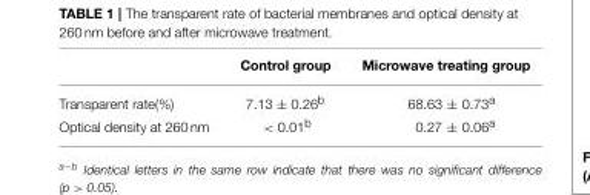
<table><thead><tr><td></td><td>Control group</td><td>Microwave treating group</td></tr></thead><tbody><tr><td>Transparent rate(%)</td><td>7.13 ± 0.26<sup>b</sup></td><td>68.63 ± 0.73<sup>a</sup></td></tr><tr><td>Optical density at 260 nm</td><td>&lt; 0.01<sup>b</sup></td><td>0.27 ± 0.06<sup>a</sup></td></tr></tbody></table>